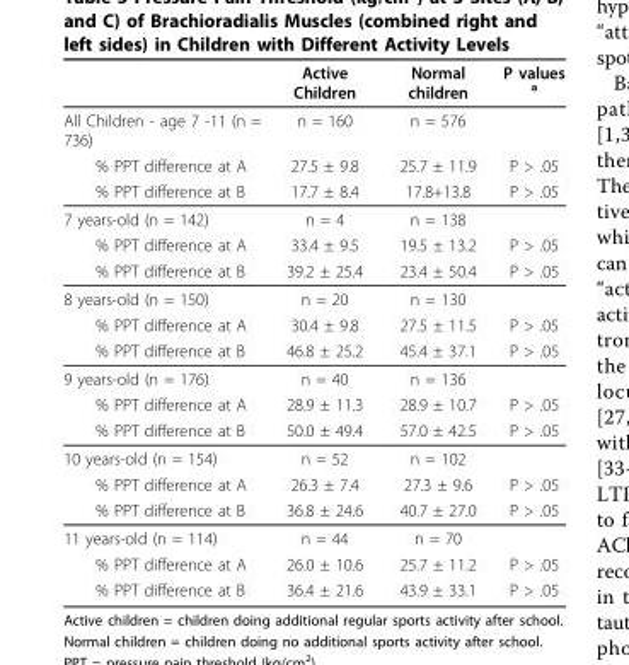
<table><thead><tr><td></td><td>Active Children</td><td>Normal children</td><td>P values <sup>a</sup></td></tr></thead><tbody><tr><td>All Children - age 7 -11 (n = 736)</td><td>n = 160</td><td>n = 576</td><td></td></tr><tr><td>% PPT difference at A</td><td>27.5 ± 9.8</td><td>25.7 ± 11.9</td><td>P &gt; .05</td></tr><tr><td>% PPT difference at B</td><td>17.7 ± 8.4</td><td>17.8+13.8</td><td>P &gt; .05</td></tr><tr><td>7 years-old (n = 142)</td><td>n = 4</td><td>n = 138</td><td></td></tr><tr><td>% PPT difference at A</td><td>33.4 ± 9.5</td><td>19.5 ± 13.2</td><td>P &gt; .05</td></tr><tr><td>% PPT difference at B</td><td>39.2 ± 25.4</td><td>23.4 ± 50.4</td><td>P &gt; .05</td></tr><tr><td>8 years-old (n = 150)</td><td>n = 20</td><td>n = 130</td><td></td></tr><tr><td>% PPT difference at A</td><td>30.4 ± 9.8</td><td>27.5 ± 11.5</td><td>P &gt; .05</td></tr><tr><td>% PPT difference at B</td><td>46.8 ± 25.2</td><td>45.4 ± 37.1</td><td>P &gt; .05</td></tr><tr><td>9 years-old (n = 176)</td><td>n = 40</td><td>n = 136</td><td></td></tr><tr><td>% PPT difference at A</td><td>28.9 ± 11.3</td><td>28.9 ± 10.7</td><td>P &gt; .05</td></tr><tr><td>% PPT difference at B</td><td>50.0 ± 49.4</td><td>57.0 ± 42.5</td><td>P &gt; .05</td></tr><tr><td>10 years-old (n = 154)</td><td>n = 52</td><td>n = 102</td><td></td></tr><tr><td>% PPT difference at A</td><td>26.3 ± 7.4</td><td>27.3 ± 9.6</td><td>P &gt; .05</td></tr><tr><td>% PPT difference at B</td><td>36.8 ± 24.6</td><td>40.7 ± 27.0</td><td>P &gt; .05</td></tr><tr><td>11 years-old (n = 114)</td><td>n = 44</td><td>n = 70</td><td></td></tr><tr><td>% PPT difference at A</td><td>26.0 ± 10.6</td><td>25.7 ± 11.2</td><td>P &gt; .05</td></tr><tr><td>% PPT difference at B</td><td>36.4 ± 21.6</td><td>43.9 ± 33.1</td><td>P &gt; .05</td></tr></tbody></table>